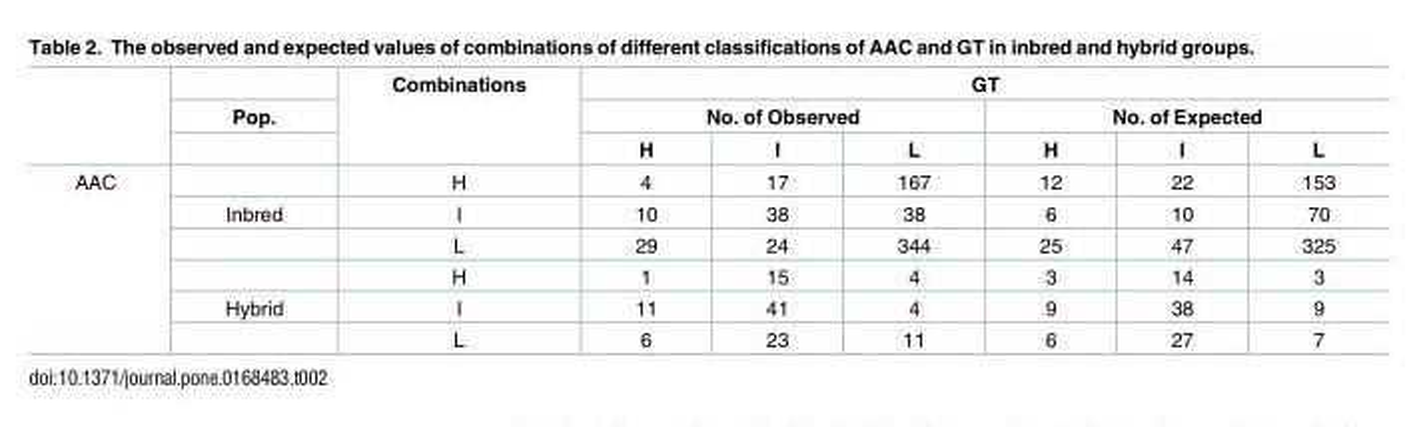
<table><thead><tr><td rowspan="3"></td><td rowspan="3">Pop.</td><td rowspan="3">Combinations</td><td colspan="6">GT</td></tr><tr><td colspan="3">No. of Observed</td><td colspan="3">No. of Expected</td></tr><tr><td>H</td><td>I</td><td>L</td><td>H</td><td>I</td><td>L</td></tr></thead><tbody><tr><td rowspan="6">AAC</td><td></td><td>H</td><td>4</td><td>17</td><td>167</td><td>12</td><td>22</td><td>153</td></tr><tr><td>Inbred</td><td>I</td><td>10</td><td>38</td><td>38</td><td>6</td><td>10</td><td>70</td></tr><tr><td></td><td>L</td><td>29</td><td>24</td><td>344</td><td>25</td><td>47</td><td>325</td></tr><tr><td></td><td>H</td><td>1</td><td>15</td><td>4</td><td>3</td><td>14</td><td>3</td></tr><tr><td>Hybrid</td><td>I</td><td>11</td><td>41</td><td>4</td><td>9</td><td>38</td><td>9</td></tr><tr><td></td><td>L</td><td>6</td><td>23</td><td>11</td><td>6</td><td>27</td><td>7</td></tr></tbody></table>